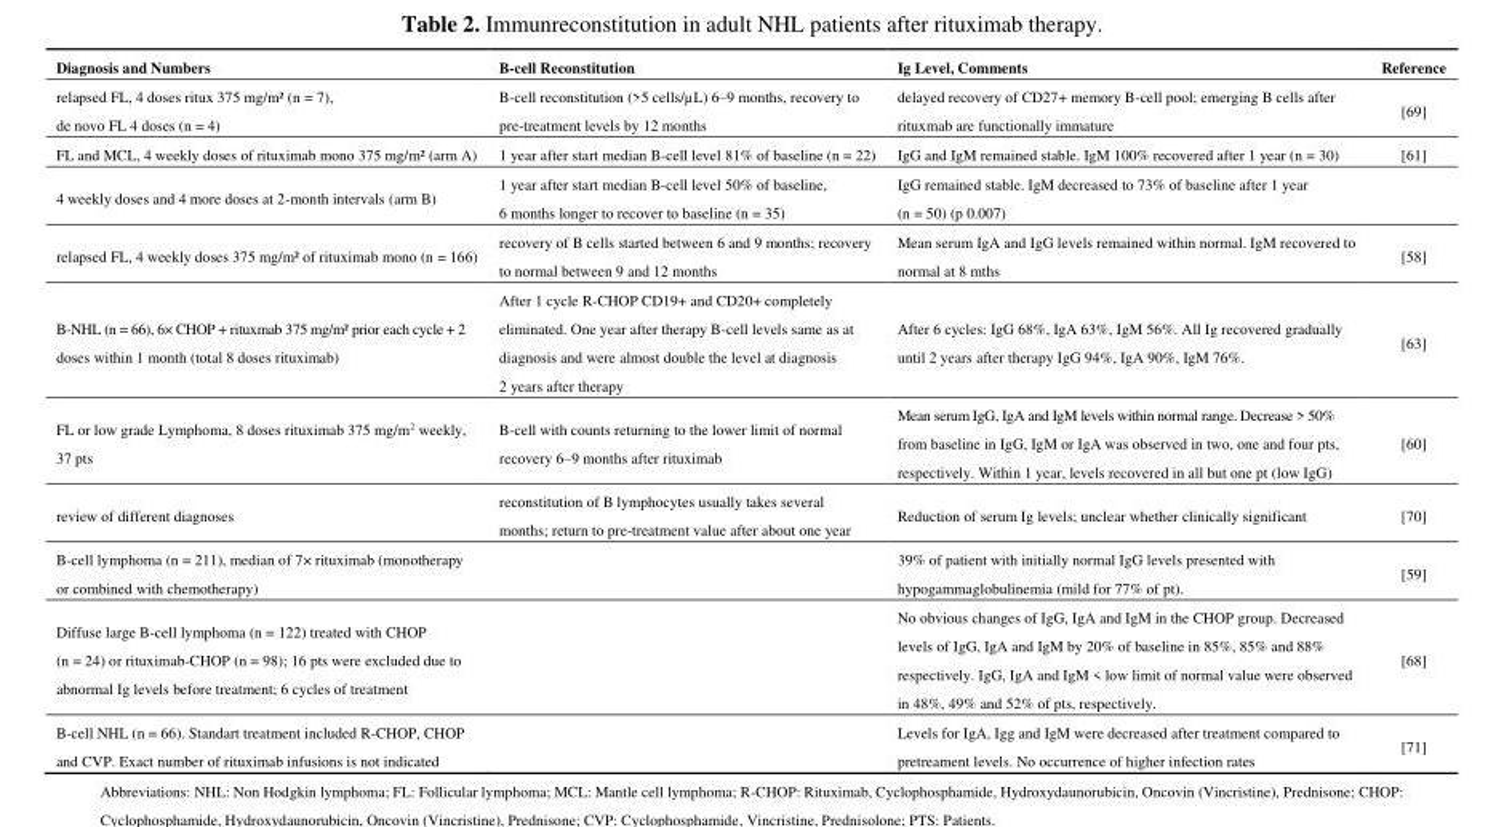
<table><thead><tr><td>Diagnosis and Numbers</td><td>B-cell Reconstitution</td><td>Ig Level, Comments</td><td>Reference</td></tr></thead><tbody><tr><td>relapsed FL, 4 doses ritux 375 mg/m² (n = 7), de novo FL 4 doses (n = 4)</td><td>B-cell reconstitution (&gt;5 cells/µL) 6–9 months, recovery to pre-treatment levels by 12 months</td><td>delayed recovery of CD27+ memory B-cell pool; emerging B cells after rituxmab are functionally immature</td><td>[69]</td></tr><tr><td>FL and MCL, 4 weekly doses of rituximab mono 375 mg/m² (arm A)</td><td>1 year after start median B-cell level 81% of baseline (n = 22)</td><td>IgG and IgM remained stable. IgM 100% recovered after 1 year (n = 30)</td><td>[61]</td></tr><tr><td>4 weekly doses and 4 more doses at 2-month intervals (arm B)</td><td>1 year after start median B-cell level 50% of baseline, 6 months longer to recover to baseline (n = 35)</td><td>IgG remained stable. IgM decreased to 73% of baseline after 1 year (n = 50) (p 0.007)</td><td></td></tr><tr><td>relapsed FL, 4 weekly doses 375 mg/m² of rituximab mono (n = 166)</td><td>recovery of B cells started between 6 and 9 months; recovery to normal between 9 and 12 months</td><td>Mean serum IgA and IgG levels remained within normal. IgM recovered to normal at 8 mths</td><td>[58]</td></tr><tr><td>B-NHL (n = 66), 6× CHOP + rituxmab 375 mg/m² prior each cycle + 2 doses within 1 month (total 8 doses rituximab)</td><td>After 1 cycle R-CHOP CD19+ and CD20+ completely eliminated. One year after therapy B-cell levels same as at diagnosis and were almost double the level at diagnosis 2 years after therapy</td><td>After 6 cycles: IgG 68%, IgA 63%, IgM 56%. All Ig recovered gradually until 2 years after therapy IgG 94%, IgA 90%, IgM 76%.</td><td>[63]</td></tr><tr><td>FL or low grade Lymphoma, 8 doses rituximab 375 mg/m<sup>2</sup> weekly, 37 pts</td><td>B-cell with counts returning to the lower limit of normal recovery 6–9 months after rituximab</td><td>Mean serum IgG, IgA and IgM levels within normal range. Decrease &gt; 50% from baseline in IgG, IgM or IgA was observed in two, one and four pts, respectively. Within 1 year, levels recovered in all but one pt (low IgG)</td><td>[60]</td></tr><tr><td>review of different diagnoses</td><td>reconstitution of B lymphocytes usually takes several months; return to pre-treatment value after about one year</td><td>Reduction of serum Ig levels; unclear whether clinically significant</td><td>[70]</td></tr><tr><td>B-cell lymphoma (n = 211), median of 7× rituximab (monotherapy or combined with chemotherapy)</td><td></td><td>39% of patient with initially normal IgG levels presented with hypogammaglobulinemia (mild for 77% of pt).</td><td>[59]</td></tr><tr><td>Diffuse large B-cell lymphoma (n = 122) treated with CHOP (n = 24) or rituximab-CHOP (n = 98); 16 pts were excluded due to abnormal Ig levels before treatment; 6 cycles of treatment</td><td></td><td>No obvious changes of IgG, IgA and IgM in the CHOP group. Decreased levels of IgG, IgA and IgM by 20% of baseline in 85%, 85% and 88% respectively. IgG, IgA and IgM &lt; low limit of normal value were observed in 48%, 49% and 52% of pts, respectively.</td><td>[68]</td></tr><tr><td>B-cell NHL (n = 66). Standart treatment included R-CHOP, CHOP and CVP. Exact number of rituximab infusions is not indicated</td><td></td><td>Levels for IgA, Igg and IgM were decreased after treatment compared to pretreament levels. No occurrence of higher infection rates</td><td>[71]</td></tr></tbody></table>